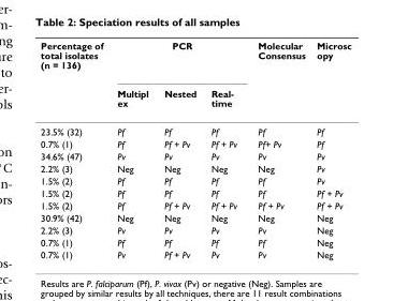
<table><thead><tr><td rowspan="2">Percentage of total isolates (n = 136)</td><td colspan="3">PCR</td><td rowspan="2">Molecular Consensus</td><td rowspan="2">Microsc opy</td></tr><tr><td>Multipl ex</td><td>Nested</td><td>Real- time</td></tr></thead><tbody><tr><td>23.5% (32)</td><td>Pf</td><td>Pf</td><td>Pf</td><td>Pf</td><td>Pf</td></tr><tr><td>0.7% (1)</td><td>Pf</td><td>Pf + Pv</td><td>Pf + Pv</td><td>Pf+ Pv</td><td>Pf</td></tr><tr><td>34.6% (47)</td><td>Pv</td><td>Pv</td><td>Pv</td><td>Pv</td><td>Pv</td></tr><tr><td>2.2% (3)</td><td>Neg</td><td>Neg</td><td>Neg</td><td>Neg</td><td>Pv</td></tr><tr><td>1.5% (2)</td><td>Pf</td><td>Pf</td><td>Pf</td><td>Pf</td><td>Pv</td></tr><tr><td>1.5% (2)</td><td>Pf</td><td>Pf</td><td>Pf</td><td>Pf</td><td>Pf + Pv</td></tr><tr><td>1.5% (2)</td><td>Pf</td><td>Pf + Pv</td><td>Pf + Pv</td><td>Pf + Pv</td><td>Pf + Pv</td></tr><tr><td>30.9% (42)</td><td>Neg</td><td>Neg</td><td>Neg</td><td>Neg</td><td>Neg</td></tr><tr><td>2.2% (3)</td><td>Pv</td><td>Pv</td><td>Pv</td><td>Pv</td><td>Neg</td></tr><tr><td>0.7% (1)</td><td>Pf</td><td>Pf</td><td>Pf</td><td>Pf</td><td>Neg</td></tr><tr><td>0.7% (1)</td><td>Pv</td><td>Pf + Pv</td><td>Pv</td><td>Pv</td><td>Neg</td></tr></tbody></table>